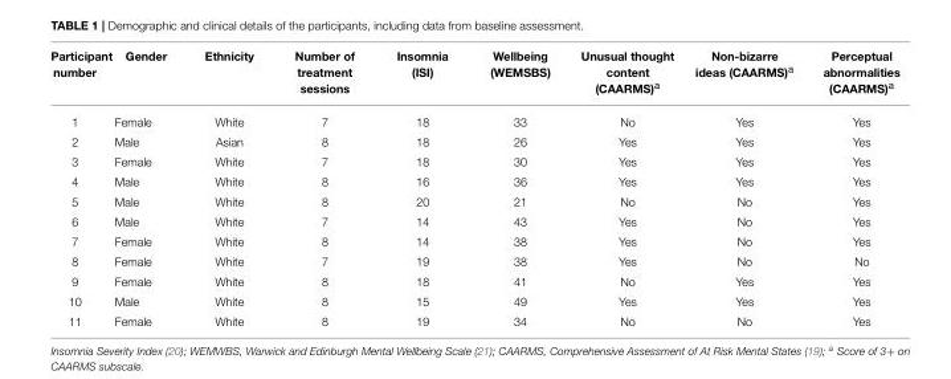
<table><thead><tr><td>Participant number</td><td>Gender</td><td>Ethnicity</td><td>Number of treatment sessions</td><td>Insomnia (ISI)</td><td>Wellbeing (WEMSBS)</td><td>Unusual thought content (CAARMS)<sup>a</sup></td><td>Non-bizarre ideas (CAARMS)<sup>a</sup></td><td>Perceptual abnormalities (CAARMS)<sup>a</sup></td></tr></thead><tbody><tr><td>1</td><td>Female</td><td>White</td><td>7</td><td>18</td><td>33</td><td>No</td><td>Yes</td><td>Yes</td></tr><tr><td>2</td><td>Male</td><td>Asian</td><td>8</td><td>18</td><td>26</td><td>Yes</td><td>Yes</td><td>Yes</td></tr><tr><td>3</td><td>Female</td><td>White</td><td>7</td><td>18</td><td>30</td><td>Yes</td><td>Yes</td><td>Yes</td></tr><tr><td>4</td><td>Male</td><td>White</td><td>8</td><td>16</td><td>36</td><td>Yes</td><td>Yes</td><td>Yes</td></tr><tr><td>5</td><td>Male</td><td>White</td><td>8</td><td>20</td><td>21</td><td>No</td><td>No</td><td>Yes</td></tr><tr><td>6</td><td>Male</td><td>White</td><td>7</td><td>14</td><td>43</td><td>Yes</td><td>No</td><td>Yes</td></tr><tr><td>7</td><td>Female</td><td>White</td><td>8</td><td>14</td><td>38</td><td>Yes</td><td>No</td><td>Yes</td></tr><tr><td>8</td><td>Female</td><td>White</td><td>7</td><td>19</td><td>38</td><td>Yes</td><td>No</td><td>No</td></tr><tr><td>9</td><td>Female</td><td>White</td><td>8</td><td>18</td><td>41</td><td>No</td><td>Yes</td><td>Yes</td></tr><tr><td>10</td><td>Male</td><td>White</td><td>8</td><td>15</td><td>49</td><td>Yes</td><td>Yes</td><td>Yes</td></tr><tr><td>11</td><td>Female</td><td>White</td><td>8</td><td>19</td><td>34</td><td>No</td><td>No</td><td>Yes</td></tr></tbody></table>